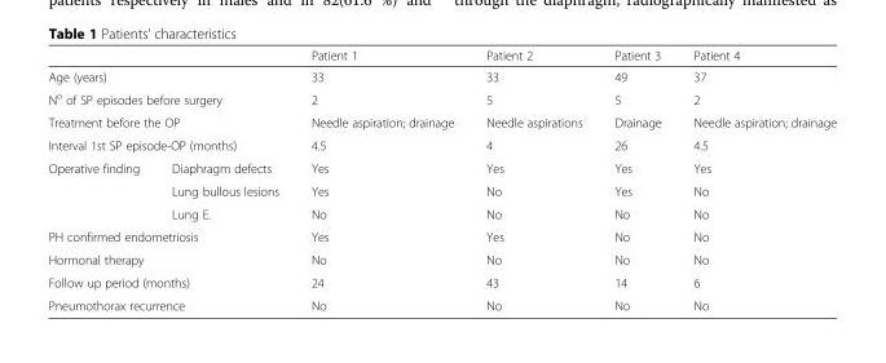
<table><thead><tr><td></td><td></td><td>Patient 1</td><td>Patient 2</td><td>Patient 3</td><td>Patient 4</td></tr></thead><tbody><tr><td colspan="2">Age (years)</td><td>33</td><td>33</td><td>49</td><td>37</td></tr><tr><td colspan="2">N<sup>o</sup> of SP episodes before surgery</td><td>2</td><td>5</td><td>5</td><td>2</td></tr><tr><td colspan="2">Treatment before the OP</td><td>Needle aspiration; drainage</td><td>Needle aspirations</td><td>Drainage</td><td>Needle aspiration; drainage</td></tr><tr><td colspan="2">Interval 1st SP episode-OP (months)</td><td>4.5</td><td>4</td><td>26</td><td>4.5</td></tr><tr><td rowspan="3">Operative finding</td><td>Diaphragm defects</td><td>Yes</td><td>Yes</td><td>Yes</td><td>Yes</td></tr><tr><td>Lung bullous lesions</td><td>Yes</td><td>No</td><td>Yes</td><td>No</td></tr><tr><td>Lung E.</td><td>No</td><td>No</td><td>No</td><td>No</td></tr><tr><td colspan="2">PH confirmed endometriosis</td><td>Yes</td><td>Yes</td><td>No</td><td>No</td></tr><tr><td colspan="2">Hormonal therapy</td><td>No</td><td>No</td><td>No</td><td>No</td></tr><tr><td colspan="2">Follow up period (months)</td><td>24</td><td>43</td><td>14</td><td>6</td></tr><tr><td colspan="2">Pneumothorax recurrence</td><td>No</td><td>No</td><td>No</td><td>No</td></tr></tbody></table>